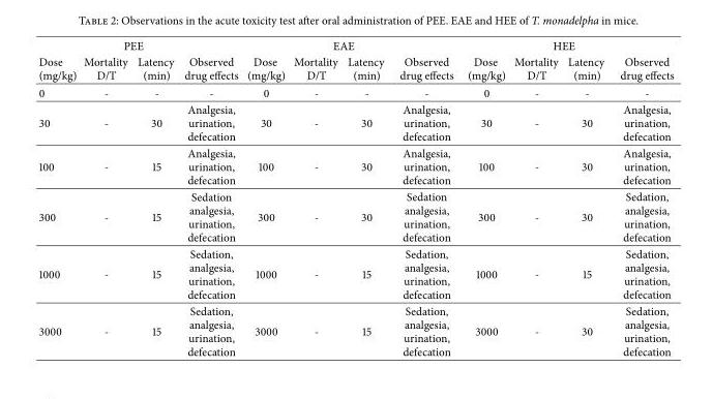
<table><thead><tr><td colspan="4">PEE</td><td colspan="4">EAE</td><td colspan="4">HEE</td></tr><tr><td>Dose (mg/kg)</td><td>Mortality D/T</td><td>Latency (min)</td><td>Observed drug effects</td><td>Dose (mg/kg)</td><td>Mortality D/T</td><td>Latency (min)</td><td>Observed drug effects</td><td>Dose (mg/kg)</td><td>Mortality D/T</td><td>Latency (min)</td><td>Observed drug effects</td></tr></thead><tbody><tr><td>0</td><td>-</td><td>-</td><td>-</td><td>0</td><td>-</td><td>-</td><td>-</td><td>0</td><td>-</td><td>-</td><td>-</td></tr><tr><td>30</td><td>-</td><td>30</td><td>Analgesia, urination, defecation</td><td>30</td><td>-</td><td>30</td><td>Analgesia, urination, defecation</td><td>30</td><td>-</td><td>30</td><td>Analgesia, urination, defecation</td></tr><tr><td>100</td><td>-</td><td>15</td><td>Analgesia, urination, defecation</td><td>100</td><td>-</td><td>30</td><td>Analgesia, urination, defecation</td><td>100</td><td>-</td><td>30</td><td>Analgesia, urination, defecation</td></tr><tr><td>300</td><td>-</td><td>15</td><td>Sedation analgesia, urination, defecation</td><td>300</td><td>-</td><td>30</td><td>Sedation analgesia, urination, defecation</td><td>300</td><td>-</td><td>30</td><td>Sedation, analgesia, urination, defecation</td></tr><tr><td>1000</td><td>-</td><td>15</td><td>Sedation, analgesia, urination, defecation</td><td>1000</td><td>-</td><td>15</td><td>Sedation, analgesia, urination, defecation</td><td>1000</td><td>-</td><td>15</td><td>Sedation, analgesia, urination, defecation</td></tr><tr><td>3000</td><td>-</td><td>15</td><td>Sedation, analgesia, urination, defecation</td><td>3000</td><td>-</td><td>15</td><td>Sedation, analgesia, urination, defecation</td><td>3000</td><td>-</td><td>30</td><td>Sedation, analgesia, urination, defecation</td></tr></tbody></table>